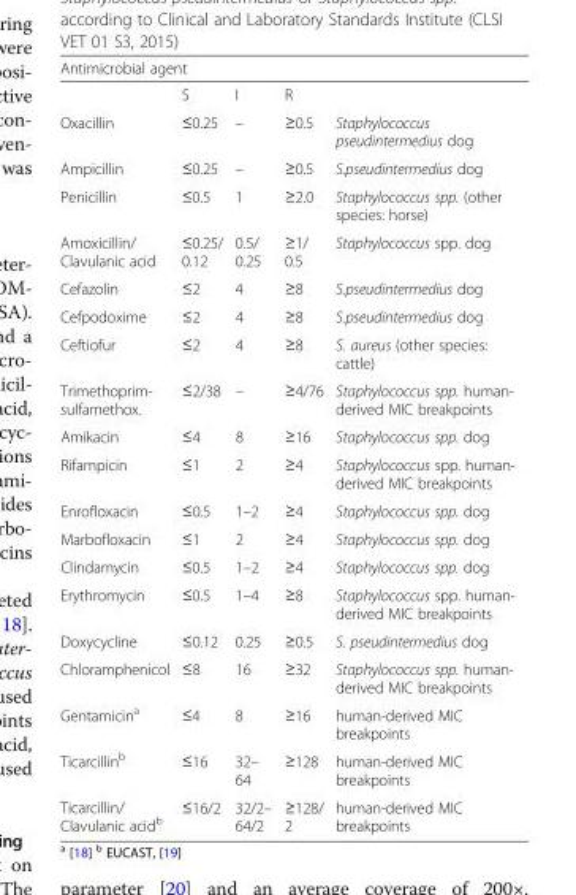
<table><thead><tr><td colspan="5">Antimicrobial agent</td></tr><tr><td></td><td>S</td><td>I</td><td>R</td><td></td></tr></thead><tbody><tr><td>Oxacillin</td><td>≤0.25</td><td>–</td><td>≥0.5</td><td>Staphylococcus pseudintermedius dog</td></tr><tr><td>Ampicillin</td><td>≤0.25</td><td>–</td><td>≥0.5</td><td>S.pseudintermedius dog</td></tr><tr><td>Penicillin</td><td>≤0.5</td><td>1</td><td>≥2.0</td><td>Staphylococcus spp. (other species: horse)</td></tr><tr><td>Amoxicillin/ Clavulanic acid</td><td>≤0.25/ 0.12</td><td>0.5/ 0.25</td><td>≥1/ 0.5</td><td>Staphylococcus spp. dog</td></tr><tr><td>Cefazolin</td><td>≤2</td><td>4</td><td>≥8</td><td>S.pseudintermedius dog</td></tr><tr><td>Cefpodoxime</td><td>≤2</td><td>4</td><td>≥8</td><td>S.pseudintermedius dog</td></tr><tr><td>Ceftiofur</td><td>≤2</td><td>4</td><td>≥8</td><td>S. aureus (other species: cattle)</td></tr><tr><td>Trimethoprim- sulfamethox.</td><td>≤2/38</td><td>–</td><td>≥4/76</td><td>Staphylococcus spp. human- derived MIC breakpoints</td></tr><tr><td>Amikacin</td><td>≤4</td><td>8</td><td>≥16</td><td>Staphylococcus spp. dog</td></tr><tr><td>Rifampicin</td><td>≤1</td><td>2</td><td>≥4</td><td>Staphylococcus spp. human- derived MIC breakpoints</td></tr><tr><td>Enrofloxacin</td><td>≤0.5</td><td>1–2</td><td>≥4</td><td>Staphylococcus spp. dog</td></tr><tr><td>Marbofloxacin</td><td>≤1</td><td>2</td><td>≥4</td><td>Staphylococcus spp. dog</td></tr><tr><td>Clindamycin</td><td>≤0.5</td><td>1–2</td><td>≥4</td><td>Staphylococcus spp. dog</td></tr><tr><td>Erythromycin</td><td>≤0.5</td><td>1–4</td><td>≥8</td><td>Staphylococcus spp. human- derived MIC breakpoints</td></tr><tr><td>Doxycycline</td><td>≤0.12</td><td>0.25</td><td>≥0.5</td><td>S. pseudintermedius dog</td></tr><tr><td>Chloramphenicol</td><td>≤8</td><td>16</td><td>≥32</td><td>Staphylococcus spp. human- derived MIC breakpoints</td></tr><tr><td>Gentamicin<sup>a</sup></td><td>≤4</td><td>8</td><td>≥16</td><td>human-derived MIC breakpoints</td></tr><tr><td>Ticarcillin<sup>b</sup></td><td>≤16</td><td>32– 64</td><td>≥128</td><td>human-derived MIC breakpoints</td></tr><tr><td>Ticarcillin/ Clavulanic acid<sup>b</sup></td><td>≤16/2</td><td>32/2– 64/2</td><td>≥128/ 2</td><td>human-derived MIC breakpoints</td></tr></tbody></table>